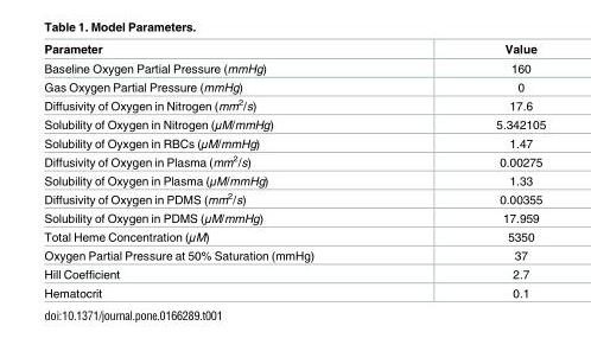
<table><thead><tr><td>Parameter</td><td>Value</td></tr></thead><tbody><tr><td>Baseline Oxygen Partial Pressure (mmHg)</td><td>160</td></tr><tr><td>Gas Oxygen Partial Pressure (mmHg)</td><td>0</td></tr><tr><td>Diffusivity of Oxygen in Nitrogen (mm<sup>2</sup>/s)</td><td>17.6</td></tr><tr><td>Solubility of Oxygen in Nitrogen (μM/mmHg)</td><td>5.342105</td></tr><tr><td>Solubility of Oyxgen in RBCs (μM/mmHg)</td><td>1.47</td></tr><tr><td>Diffusivity of Oxygen in Plasma (mm<sup>2</sup>/s)</td><td>0.00275</td></tr><tr><td>Solubility of Oxygen in Plasma (μM/mmHg)</td><td>1.33</td></tr><tr><td>Diffusivity of Oxygen in PDMS (mm<sup>2</sup>/s)</td><td>0.00355</td></tr><tr><td>Solubility of Oxygen in PDMS (μM/mmHg)</td><td>17.959</td></tr><tr><td>Total Heme Concentration (μM)</td><td>5350</td></tr><tr><td>Oxygen Partial Pressure at 50% Saturation (mmHg)</td><td>37</td></tr><tr><td>Hill Coefficient</td><td>2.7</td></tr><tr><td>Hematocrit</td><td>0.1</td></tr></tbody></table>